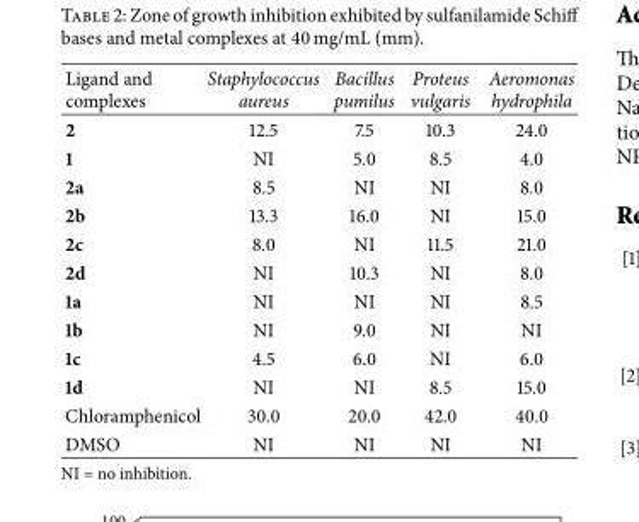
<table><thead><tr><td>Ligand and complexes</td><td>Staphylococcus aureus</td><td>Bacillus pumilus</td><td>Proteus vulgaris</td><td>Aeromonas hydrophila</td></tr></thead><tbody><tr><td>2</td><td>12.5</td><td>7.5</td><td>10.3</td><td>24.0</td></tr><tr><td>1</td><td>NI</td><td>5.0</td><td>8.5</td><td>4.0</td></tr><tr><td>2a</td><td>8.5</td><td>NI</td><td>NI</td><td>8.0</td></tr><tr><td>2b</td><td>13.3</td><td>16.0</td><td>NI</td><td>15.0</td></tr><tr><td>2c</td><td>8.0</td><td>NI</td><td>11.5</td><td>21.0</td></tr><tr><td>2d</td><td>NI</td><td>10.3</td><td>NI</td><td>8.0</td></tr><tr><td>1a</td><td>NI</td><td>NI</td><td>NI</td><td>8.5</td></tr><tr><td>1b</td><td>NI</td><td>9.0</td><td>NI</td><td>NI</td></tr><tr><td>1c</td><td>4.5</td><td>6.0</td><td>NI</td><td>6.0</td></tr><tr><td>1d</td><td>NI</td><td>NI</td><td>8.5</td><td>15.0</td></tr><tr><td>Chloramphenicol</td><td>30.0</td><td>20.0</td><td>42.0</td><td>40.0</td></tr><tr><td>DMSO</td><td>NI</td><td>NI</td><td>NI</td><td>NI</td></tr></tbody></table>